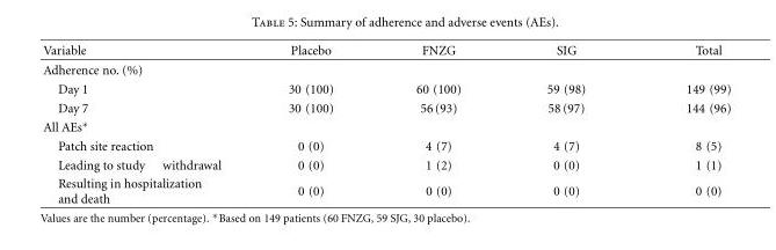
<table><thead><tr><td>Variable</td><td>Placebo</td><td>FNZG</td><td>SIG</td><td>Total</td></tr></thead><tbody><tr><td colspan="5">Adherence no. (%)</td></tr><tr><td>Day 1</td><td>30 (100)</td><td>60 (100)</td><td>59 (98)</td><td>149 (99)</td></tr><tr><td>Day 7</td><td>30 (100)</td><td>56(93)</td><td>58(97)</td><td>144 (96)</td></tr><tr><td colspan="5">All AEs∗</td></tr><tr><td>Patch site reaction</td><td>0 (0)</td><td>4 (7)</td><td>4 (7)</td><td>8 (5)</td></tr><tr><td>Leading to study withdrawal</td><td>0 (0)</td><td>1 (2)</td><td>0 (0)</td><td>1 (1)</td></tr><tr><td>Resulting in hospitalization and death</td><td>0 (0)</td><td>0 (0)</td><td>0 (0)</td><td>0 (0)</td></tr></tbody></table>